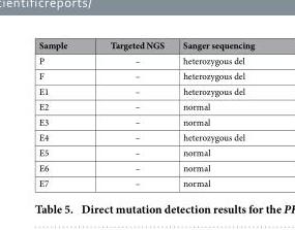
<table><thead><tr><td>Sample</td><td>Targeted NGS</td><td>Sanger sequencing</td></tr></thead><tbody><tr><td>P</td><td>–</td><td>heterozygous del</td></tr><tr><td>F</td><td>–</td><td>heterozygous del</td></tr><tr><td>E1</td><td>–</td><td>heterozygous del</td></tr><tr><td>E2</td><td>–</td><td>normal</td></tr><tr><td>E3</td><td>–</td><td>normal</td></tr><tr><td>E4</td><td>–</td><td>heterozygous del</td></tr><tr><td>E5</td><td>–</td><td>normal</td></tr><tr><td>E6</td><td>–</td><td>normal</td></tr><tr><td>E7</td><td>–</td><td>normal</td></tr></tbody></table>